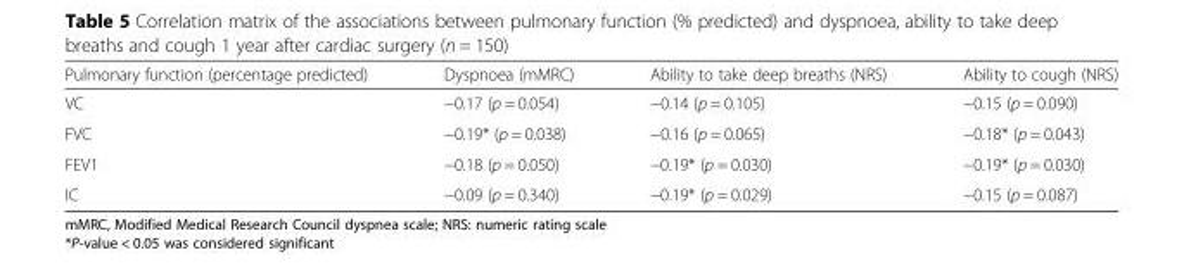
<table><thead><tr><td>Pulmonary function (percentage predicted)</td><td>Dyspnoea (mMRC)</td><td>Ability to take deep breaths (NRS)</td><td>Ability to cough (NRS)</td></tr></thead><tbody><tr><td>VC</td><td>−0.17 (p = 0.054)</td><td>−0.14 (p = 0.105)</td><td>−0.15 (p = 0.090)</td></tr><tr><td>FVC</td><td>−0.19* (p = 0.038)</td><td>−0.16 (p = 0.065)</td><td>−0.18* (p = 0.043)</td></tr><tr><td>FEV1</td><td>−0.18 (p = 0.050)</td><td>−0.19* (p = 0.030)</td><td>−0.19* (p = 0.030)</td></tr><tr><td>IC</td><td>−0.09 (p = 0.340)</td><td>−0.19* (p = 0.029)</td><td>−0.15 (p = 0.087)</td></tr></tbody></table>